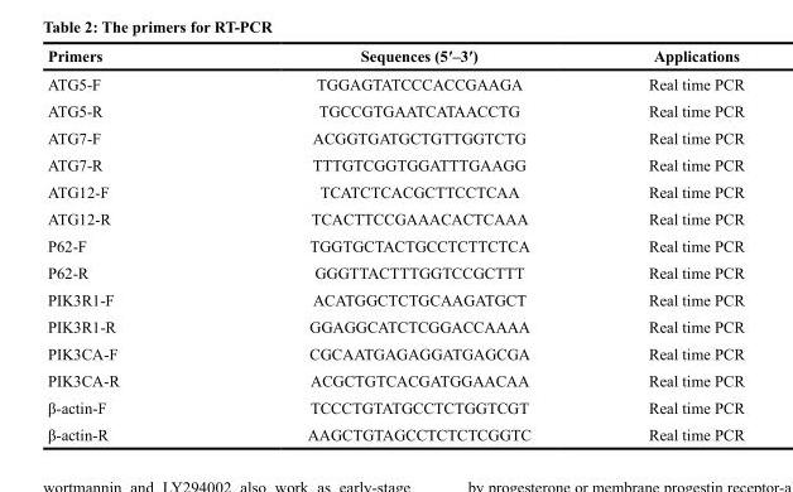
<table><thead><tr><td>Primers</td><td>Sequences (5′–3′)</td><td>Applications</td></tr></thead><tbody><tr><td>ATG5-F</td><td>TGGAGTATCCCACCGAAGA</td><td>Real time PCR</td></tr><tr><td>ATG5-R</td><td>TGCCGTGAATCATAACCTG</td><td>Real time PCR</td></tr><tr><td>ATG7-F</td><td>ACGGTGATGCTGTTGGTCTG</td><td>Real time PCR</td></tr><tr><td>ATG7-R</td><td>TTTGTCGGTGGATTTGAAGG</td><td>Real time PCR</td></tr><tr><td>ATG12-F</td><td>TCATCTCACGCTTCCTCAA</td><td>Real time PCR</td></tr><tr><td>ATG12-R</td><td>TCACTTCCGAAACACTCAAA</td><td>Real time PCR</td></tr><tr><td>P62-F</td><td>TGGTGCTACTGCCTCTTCTCA</td><td>Real time PCR</td></tr><tr><td>P62-R</td><td>GGGTTACTTTGGTCCGCTTT</td><td>Real time PCR</td></tr><tr><td>PIK3R1-F</td><td>ACATGGCTCTGCAAGATGCT</td><td>Real time PCR</td></tr><tr><td>PIK3R1-R</td><td>GGAGGCATCTCGGACCAAAA</td><td>Real time PCR</td></tr><tr><td>PIK3CA-F</td><td>CGCAATGAGAGGATGAGCGA</td><td>Real time PCR</td></tr><tr><td>PIK3CA-R</td><td>ACGCTGTCACGATGGAACAA</td><td>Real time PCR</td></tr><tr><td>β-actin-F</td><td>TCCCTGTATGCCTCTGGTCGT</td><td>Real time PCR</td></tr><tr><td>β-actin-R</td><td>AAGCTGTAGCCTCTCTCGGTC</td><td>Real time PCR</td></tr></tbody></table>